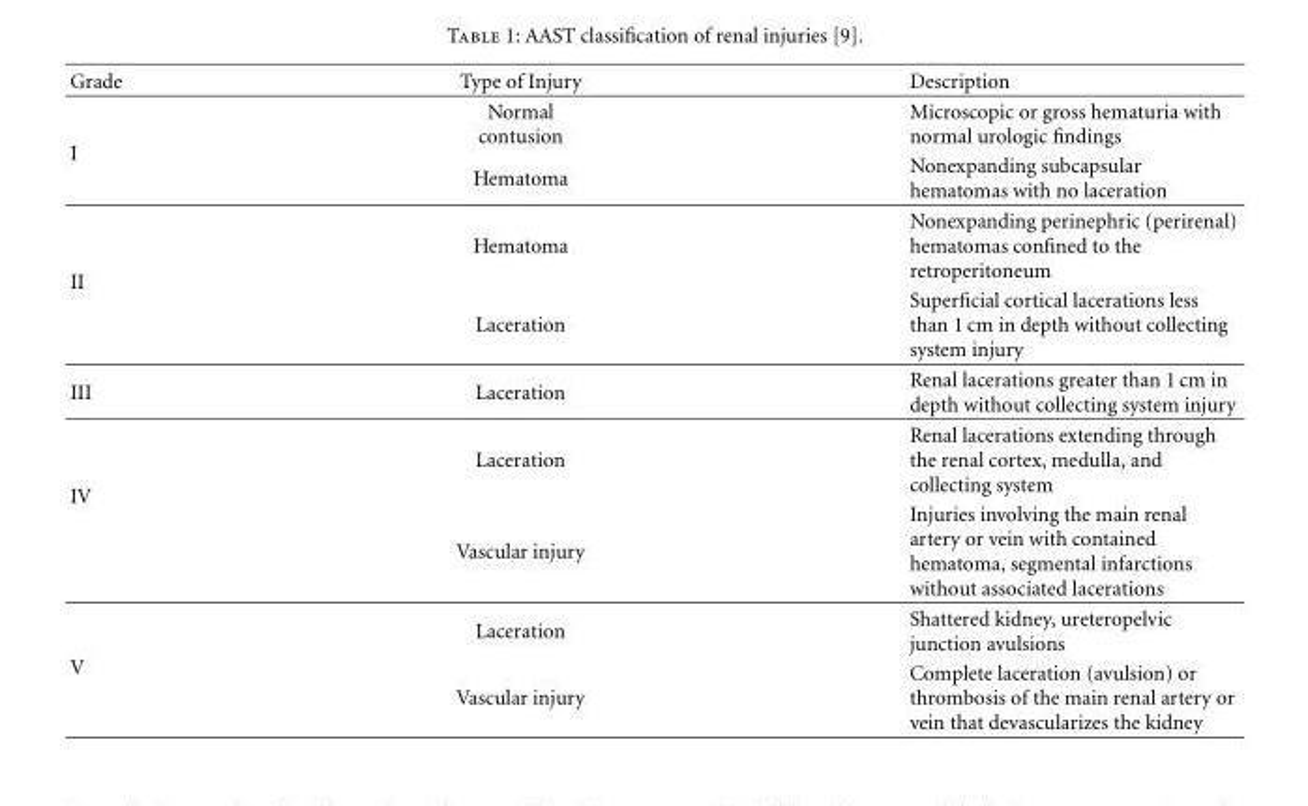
<table><thead><tr><td>Grade</td><td>Type of Injury</td><td>Description</td></tr></thead><tbody><tr><td rowspan="2">I</td><td>Normal contusion</td><td>Microscopic or gross hematuria with normal urologic findings</td></tr><tr><td>Hematoma</td><td>Nonexpanding subcapsular hematomas with no laceration</td></tr><tr><td rowspan="2">II</td><td>Hematoma</td><td>Nonexpanding perinephric (perirenal) hematomas confined to the retroperitoneum</td></tr><tr><td>Laceration</td><td>Superficial cortical lacerations less than 1 cm in depth without collecting system injury</td></tr><tr><td>III</td><td>Laceration</td><td>Renal lacerations greater than 1 cm in depth without collecting system injury</td></tr><tr><td rowspan="2">IV</td><td>Laceration</td><td>Renal lacerations extending through the renal cortex, medulla, and collecting system</td></tr><tr><td>Vascular injury</td><td>Injuries involving the main renal artery or vein with contained hematoma, segmental infarctions without associated lacerations</td></tr><tr><td rowspan="2">V</td><td>Laceration</td><td>Shattered kidney, ureteropelvic junction avulsions</td></tr><tr><td>Vascular injury</td><td>Complete laceration (avulsion) or thrombosis of the main renal artery or vein that devascularizes the kidney</td></tr></tbody></table>